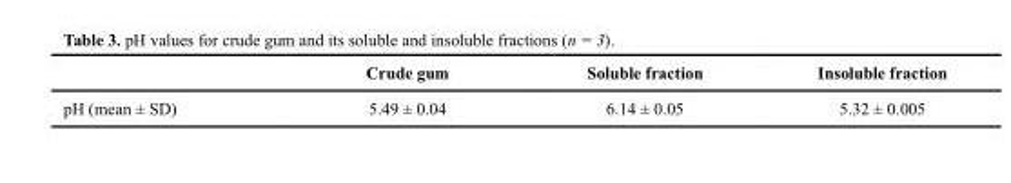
<table><thead><tr><td></td><td>Crude gum</td><td>Soluble fraction</td><td>Insoluble fraction</td></tr></thead><tbody><tr><td>pH (mean ± SD)</td><td>5.49 ± 0.04</td><td>6.14 ± 0.05</td><td>5.32 ± 0.005</td></tr></tbody></table>